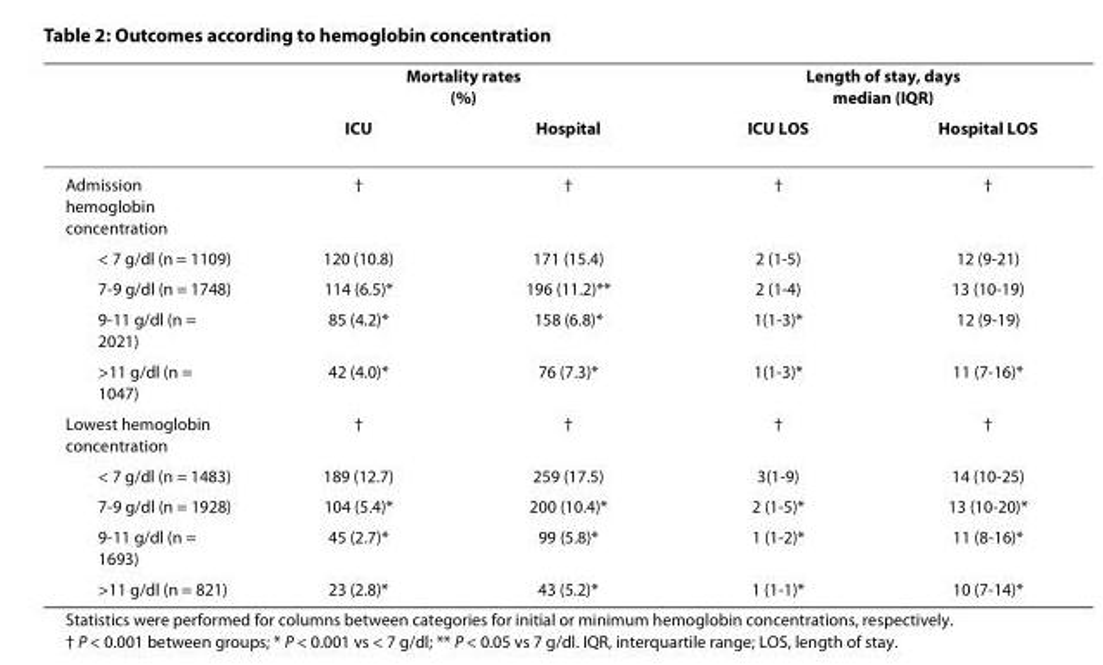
<table><thead><tr><td rowspan="2"></td><td colspan="2">Mortality rates (%)</td><td colspan="2">Length of stay, days median (IQR)</td></tr><tr><td>ICU</td><td>Hospital</td><td>ICU LOS</td><td>Hospital LOS</td></tr></thead><tbody><tr><td>Admission hemoglobin concentration</td><td>†</td><td>†</td><td>†</td><td>†</td></tr><tr><td>&lt; 7 g/dl (n = 1109)</td><td>120 (10.8)</td><td>171 (15.4)</td><td>2 (1-5)</td><td>12 (9-21)</td></tr><tr><td>7-9 g/dl (n = 1748)</td><td>114 (6.5)*</td><td>196 (11.2)**</td><td>2 (1-4)</td><td>13 (10-19)</td></tr><tr><td>9-11 g/dl (n = 2021)</td><td>85 (4.2)*</td><td>158 (6.8)*</td><td>1(1-3)*</td><td>12 (9-19)</td></tr><tr><td>&gt;11 g/dl (n = 1047)</td><td>42 (4.0)*</td><td>76 (7.3)*</td><td>1(1-3)*</td><td>11 (7-16)*</td></tr><tr><td>Lowest hemoglobin concentration</td><td>†</td><td>†</td><td>†</td><td>†</td></tr><tr><td>&lt; 7 g/dl (n = 1483)</td><td>189 (12.7)</td><td>259 (17.5)</td><td>3(1-9)</td><td>14 (10-25)</td></tr><tr><td>7-9 g/dl (n = 1928)</td><td>104 (5.4)*</td><td>200 (10.4)*</td><td>2 (1-5)*</td><td>13 (10-20)*</td></tr><tr><td>9-11 g/dl (n = 1693)</td><td>45 (2.7)*</td><td>99 (5.8)*</td><td>1 (1-2)*</td><td>11 (8-16)*</td></tr><tr><td>&gt;11 g/dl (n = 821)</td><td>23 (2.8)*</td><td>43 (5.2)*</td><td>1 (1-1)*</td><td>10 (7-14)*</td></tr></tbody></table>